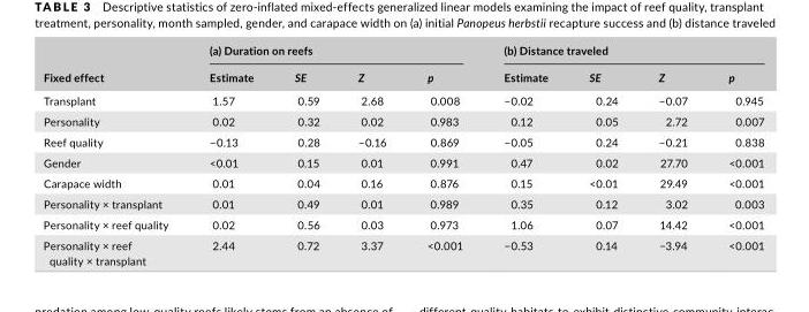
<table><thead><tr><td rowspan="2">Fixed effect</td><td colspan="4">(a) Duration on reefs</td><td colspan="4">(b) Distance traveled</td></tr><tr><td>Estimate</td><td>SE</td><td>Z</td><td>p</td><td>Estimate</td><td>SE</td><td>Z</td><td>p</td></tr></thead><tbody><tr><td>Transplant</td><td>1.57</td><td>0.59</td><td>2.68</td><td>0.008</td><td>−0.02</td><td>0.24</td><td>−0.07</td><td>0.945</td></tr><tr><td>Personality</td><td>0.02</td><td>0.32</td><td>0.02</td><td>0.983</td><td>0.12</td><td>0.05</td><td>2.72</td><td>0.007</td></tr><tr><td>Reef quality</td><td>−0.13</td><td>0.28</td><td>−0.16</td><td>0.869</td><td>−0.05</td><td>0.24</td><td>−0.21</td><td>0.838</td></tr><tr><td>Gender</td><td>&lt;0.01</td><td>0.15</td><td>0.01</td><td>0.991</td><td>0.47</td><td>0.02</td><td>27.70</td><td>&lt;0.001</td></tr><tr><td>Carapace width</td><td>0.01</td><td>0.04</td><td>0.16</td><td>0.876</td><td>0.15</td><td>&lt;0.01</td><td>29.49</td><td>&lt;0.001</td></tr><tr><td>Personality × transplant</td><td>0.01</td><td>0.49</td><td>0.01</td><td>0.989</td><td>0.35</td><td>0.12</td><td>3.02</td><td>0.003</td></tr><tr><td>Personality × reef quality</td><td>0.02</td><td>0.56</td><td>0.03</td><td>0.973</td><td>1.06</td><td>0.07</td><td>14.42</td><td>&lt;0.001</td></tr><tr><td>Personality × reef quality × transplant</td><td>2.44</td><td>0.72</td><td>3.37</td><td>&lt;0.001</td><td>−0.53</td><td>0.14</td><td>−3.94</td><td>&lt;0.001</td></tr></tbody></table>